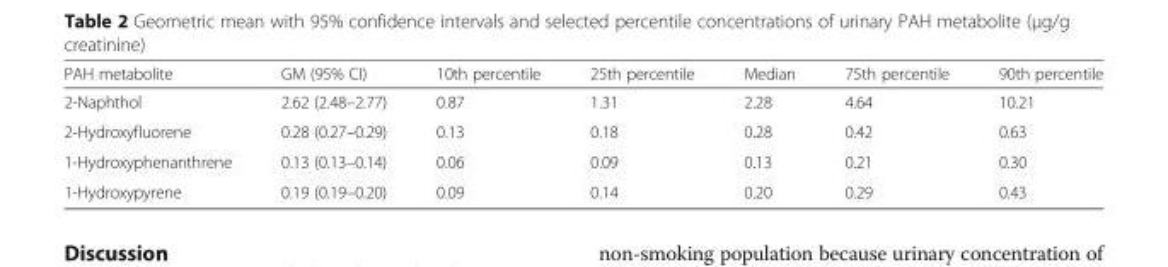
<table><thead><tr><td>PAH metabolite</td><td>GM (95% CI)</td><td>10th percentile</td><td>25th percentile</td><td>Median</td><td>75th percentile</td><td>90th percentile</td></tr></thead><tbody><tr><td>2-Naphthol</td><td>2.62 (2.48–2.77)</td><td>0.87</td><td>1.31</td><td>2.28</td><td>4.64</td><td>10.21</td></tr><tr><td>2-Hydroxyfluorene</td><td>0.28 (0.27–0.29)</td><td>0.13</td><td>0.18</td><td>0.28</td><td>0.42</td><td>0.63</td></tr><tr><td>1-Hydroxyphenanthrene</td><td>0.13 (0.13–0.14)</td><td>0.06</td><td>0.09</td><td>0.13</td><td>0.21</td><td>0.30</td></tr><tr><td>1-Hydroxypyrene</td><td>0.19 (0.19–0.20)</td><td>0.09</td><td>0.14</td><td>0.20</td><td>0.29</td><td>0.43</td></tr></tbody></table>